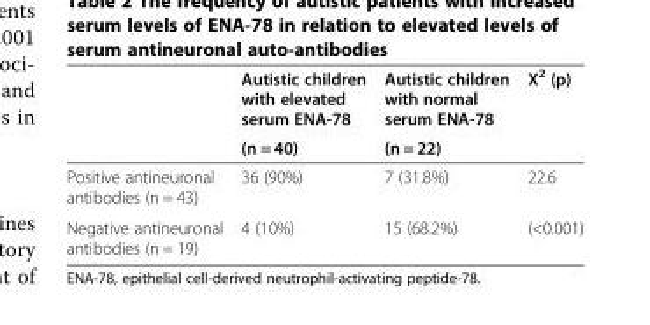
<table><thead><tr><td rowspan="2"></td><td rowspan="2">Autistic children with elevated serum ENA-78 (n = 40)</td><td rowspan="2">Autistic children with normal serum ENA-78 (n = 22)</td><td rowspan="2">X<sup>2</sup> (p)</td></tr><tr></tr></thead><tbody><tr><td>Positive antineuronal antibodies (n = 43)</td><td>36 (90%)</td><td>7 (31.8%)</td><td>22.6</td></tr><tr><td>Negative antineuronal antibodies (n = 19)</td><td>4 (10%)</td><td>15 (68.2%)</td><td>(&lt;0.001)</td></tr></tbody></table>